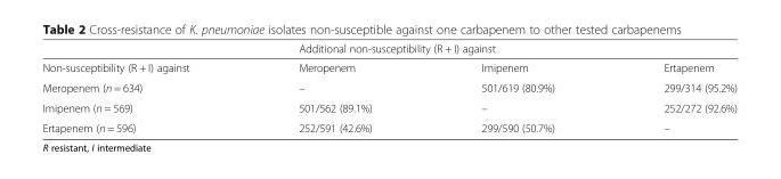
<table><thead><tr><td rowspan="2">Non-susceptibility (R + I) against</td><td colspan="3">Additional non-susceptibility (R + I) against</td></tr><tr><td>Meropenem</td><td>Imipenem</td><td>Ertapenem</td></tr></thead><tbody><tr><td>Meropenem (n = 634)</td><td>–</td><td>501/619 (80.9%)</td><td>299/314 (95.2%)</td></tr><tr><td>Imipenem (n = 569)</td><td>501/562 (89.1%)</td><td>–</td><td>252/272 (92.6%)</td></tr><tr><td>Ertapenem (n = 596)</td><td>252/591 (42.6%)</td><td>299/590 (50.7%)</td><td>–</td></tr></tbody></table>